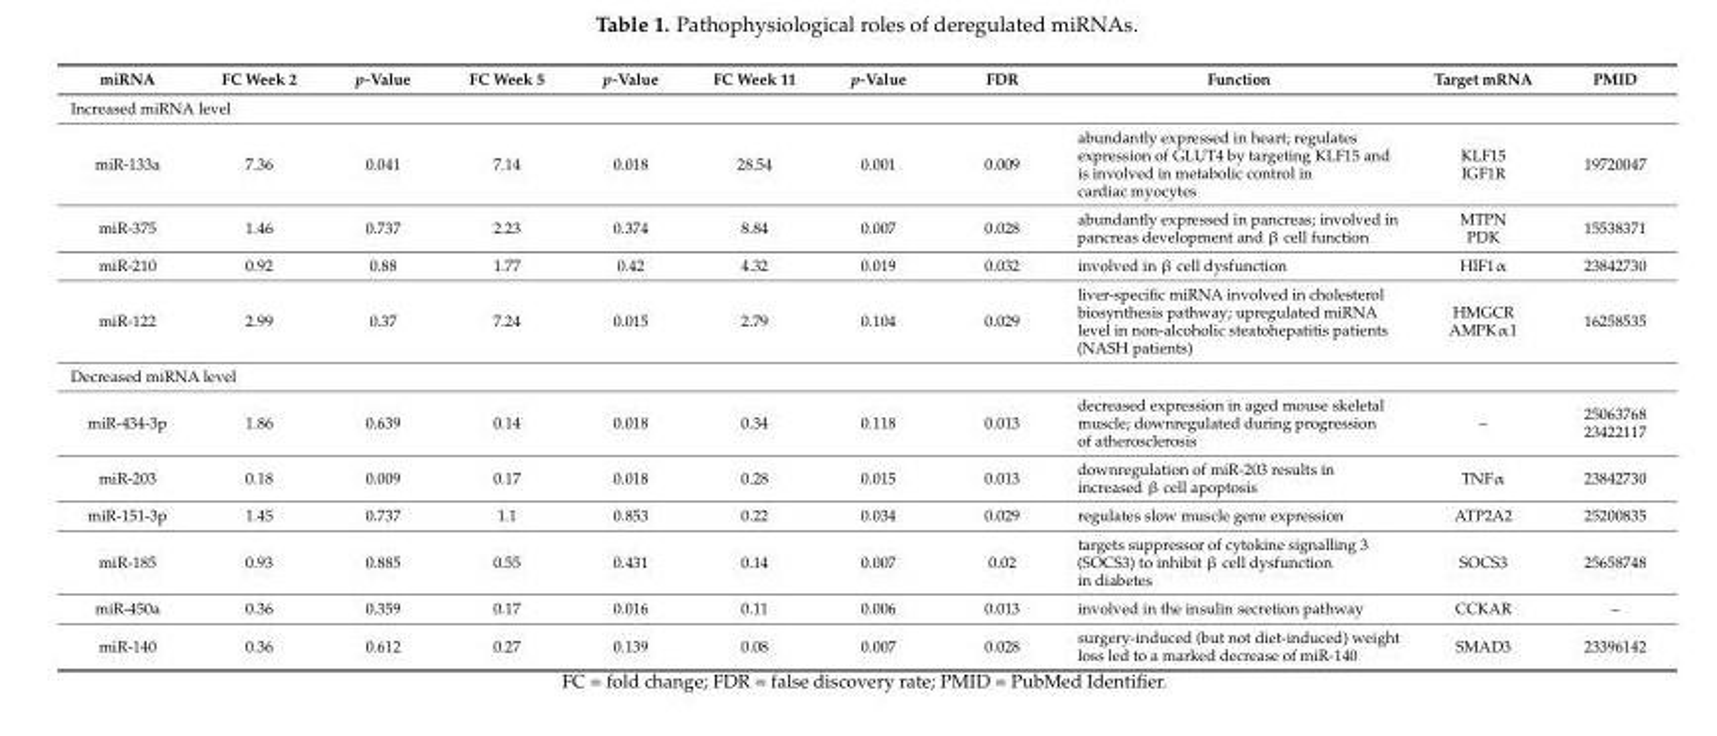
<table><thead><tr><td>miRNA</td><td>FC Week 2</td><td>p-Value</td><td>FC Week 5</td><td>p-Value</td><td>FC Week 11</td><td>p-Value</td><td>FDR</td><td>Function</td><td>Target mRNA</td><td>PMID</td></tr></thead><tbody><tr><td colspan="11">Increased miRNA level</td></tr><tr><td>miR-133a</td><td>7.36</td><td>0.041</td><td>7.14</td><td>0.018</td><td>28.54</td><td>0.001</td><td>0.009</td><td>abundantly expressed in heart; regulates expression of GLUT4 by targeting KLF15 and is involved in metabolic control in cardiac myocytes</td><td>KLF15 IGF1R</td><td>19720047</td></tr><tr><td>miR-375</td><td>1.46</td><td>0.737</td><td>2.23</td><td>0.374</td><td>8.84</td><td>0.007</td><td>0.028</td><td>abundantly expressed in pancreas; involved in pancreas development and β cell function</td><td>MTPN PDK</td><td>15538371</td></tr><tr><td>miR-210</td><td>0.92</td><td>0.88</td><td>1.77</td><td>0.42</td><td>4.32</td><td>0.019</td><td>0.032</td><td>involved in β cell dysfunction</td><td>HIF1α</td><td>23842730</td></tr><tr><td>miR-122</td><td>2.99</td><td>0.37</td><td>7.24</td><td>0.015</td><td>2.79</td><td>0.104</td><td>0.029</td><td>liver-specific miRNA involved in cholesterol biosynthesis pathway; upregulated miRNA level in non-alcoholic steatohepatitis patients (NASH patients)</td><td>HMGCR AMPKα1</td><td>16258535</td></tr><tr><td colspan="11">Decreased miRNA level</td></tr><tr><td>miR-434-3p</td><td>1.86</td><td>0.639</td><td>0.14</td><td>0.018</td><td>0.34</td><td>0.118</td><td>0.013</td><td>decreased expression in aged mouse skeletal muscle; downregulated during progression of atherosclerosis</td><td>–</td><td>25063768 23422117</td></tr><tr><td>miR-203</td><td>0.18</td><td>0.009</td><td>0.17</td><td>0.018</td><td>0.28</td><td>0.015</td><td>0.013</td><td>downregulation of miR-203 results in increased β cell apoptosis</td><td>TNFα</td><td>23842730</td></tr><tr><td>miR-151-3p</td><td>1.45</td><td>0.737</td><td>1.1</td><td>0.853</td><td>0.22</td><td>0.034</td><td>0.029</td><td>regulates slow muscle gene expression</td><td>ATP2A2</td><td>25200835</td></tr><tr><td>miR-185</td><td>0.93</td><td>0.885</td><td>0.55</td><td>0.431</td><td>0.14</td><td>0.007</td><td>0.02</td><td>targets suppressor of cytokine signalling 3 (SOCS3) to inhibit β cell dysfunction in diabetes</td><td>SOCS3</td><td>25658748</td></tr><tr><td>miR-450a</td><td>0.36</td><td>0.359</td><td>0.17</td><td>0.016</td><td>0.11</td><td>0.006</td><td>0.013</td><td>involved in the insulin secretion pathway</td><td>CCKAR</td><td>–</td></tr><tr><td>miR-140</td><td>0.36</td><td>0.612</td><td>0.27</td><td>0.139</td><td>0.08</td><td>0.007</td><td>0.028</td><td>surgery-induced (but not diet-induced) weight loss led to a marked decrease of miR-140</td><td>SMAD3</td><td>23396142</td></tr></tbody></table>